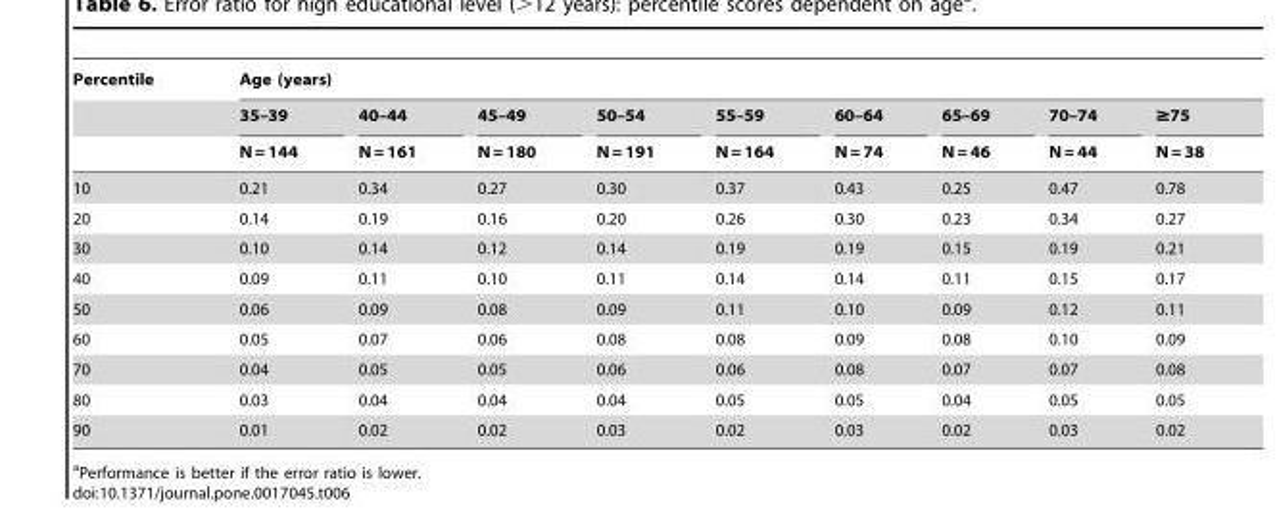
<table><thead><tr><td rowspan="3">Percentile</td><td colspan="9">Age (years)</td></tr><tr><td rowspan="2">35–39 N = 144</td><td rowspan="2">40–44 N = 161</td><td rowspan="2">45–49 N = 180</td><td rowspan="2">50–54 N = 191</td><td rowspan="2">55–59 N = 164</td><td rowspan="2">60–64 N = 74</td><td rowspan="2">65–69 N = 46</td><td rowspan="2">70–74 N = 44</td><td rowspan="2">≥75 N = 38</td></tr><tr></tr></thead><tbody><tr><td>10</td><td>0.21</td><td>0.34</td><td>0.27</td><td>0.30</td><td>0.37</td><td>0.43</td><td>0.25</td><td>0.47</td><td>0.78</td></tr><tr><td>20</td><td>0.14</td><td>0.19</td><td>0.16</td><td>0.20</td><td>0.26</td><td>0.30</td><td>0.23</td><td>0.34</td><td>0.27</td></tr><tr><td>30</td><td>0.10</td><td>0.14</td><td>0.12</td><td>0.14</td><td>0.19</td><td>0.19</td><td>0.15</td><td>0.19</td><td>0.21</td></tr><tr><td>40</td><td>0.09</td><td>0.11</td><td>0.10</td><td>0.11</td><td>0.14</td><td>0.14</td><td>0.11</td><td>0.15</td><td>0.17</td></tr><tr><td>50</td><td>0.06</td><td>0.09</td><td>0.08</td><td>0.09</td><td>0.11</td><td>0.10</td><td>0.09</td><td>0.12</td><td>0.11</td></tr><tr><td>60</td><td>0.05</td><td>0.07</td><td>0.06</td><td>0.08</td><td>0.08</td><td>0.09</td><td>0.08</td><td>0.10</td><td>0.09</td></tr><tr><td>70</td><td>0.04</td><td>0.05</td><td>0.05</td><td>0.06</td><td>0.06</td><td>0.08</td><td>0.07</td><td>0.07</td><td>0.08</td></tr><tr><td>80</td><td>0.03</td><td>0.04</td><td>0.04</td><td>0.04</td><td>0.05</td><td>0.05</td><td>0.04</td><td>0.05</td><td>0.05</td></tr><tr><td>90</td><td>0.01</td><td>0.02</td><td>0.02</td><td>0.03</td><td>0.02</td><td>0.03</td><td>0.02</td><td>0.03</td><td>0.02</td></tr></tbody></table>